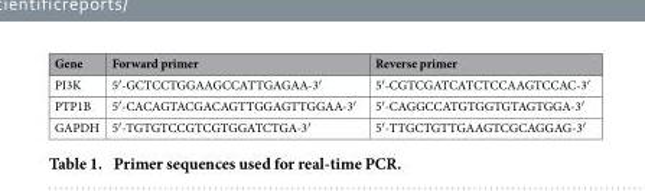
<table><thead><tr><td>Gene</td><td>Forward primer</td><td>Reverse primer</td></tr></thead><tbody><tr><td>PI3K</td><td>5′ -GCTCCTGGAAGCCATTGAGAA-3′</td><td>5′ -CGTCGATCATCTCCAAGTCCAC-3′</td></tr><tr><td>PTP1B</td><td>5′ -CACAGTACGACAGTTGGAGTTGGAA-3′</td><td>5′ -CAGGCCATGTGGTGTAGTGGA-3′</td></tr><tr><td>GAPDH</td><td>5′ -TGTGTCCGTCGTGGATCTGA-3′</td><td>5′ -TTGCTGTTGAAGTCGCAGGAG-3′</td></tr></tbody></table>